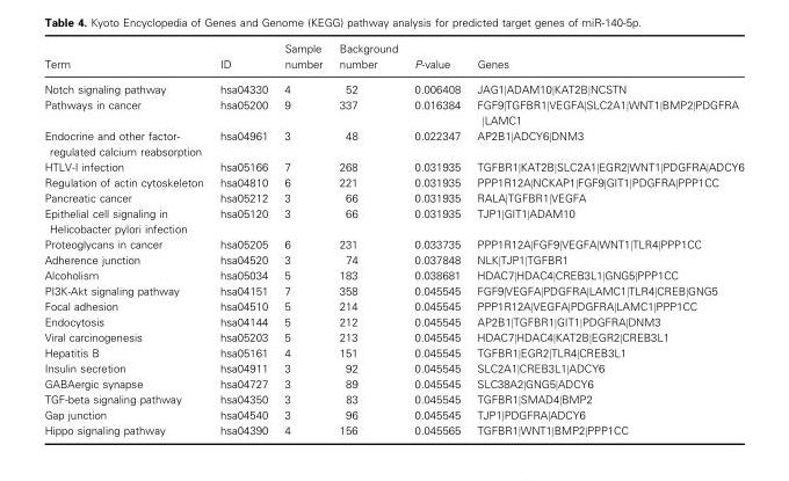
<table><thead><tr><td>Term</td><td>ID</td><td>Sample number</td><td>Background number</td><td>P-value</td><td>Genes</td></tr></thead><tbody><tr><td>Notch signaling pathway</td><td>hsa04330</td><td>4</td><td>52</td><td>0.006408</td><td>JAG1|ADAM10|KAT2B|NCSTN</td></tr><tr><td>Pathways in cancer</td><td>hsa05200</td><td>9</td><td>337</td><td>0.016384</td><td>FGF9|TGFBR1|VEGFA|SLC2A1|WNT1|BMP2|PDGFRA |LAMC1</td></tr><tr><td>Endocrine and other factor- regulated calcium reabsorption</td><td>hsa04961</td><td>3</td><td>48</td><td>0.022347</td><td>AP2B1|ADCY6|DNM3</td></tr><tr><td>HTLV-I infection</td><td>hsa05166</td><td>7</td><td>268</td><td>0.031935</td><td>TGFBR1|KAT2B|SLC2A1|EGR2|WNT1|PDGFRA|ADCY6</td></tr><tr><td>Regulation of actin cytoskeleton</td><td>hsa04810</td><td>6</td><td>221</td><td>0.031935</td><td>PPP1R12A|NCKAP1|FGF9|GIT1|PDGFRA|PPP1CC</td></tr><tr><td>Pancreatic cancer</td><td>hsa05212</td><td>3</td><td>66</td><td>0.031935</td><td>RALA|TGFBR1|VEGFA</td></tr><tr><td>Epithelial cell signaling in Helicobacter pylori infection</td><td>hsa05120</td><td>3</td><td>66</td><td>0.031935</td><td>TJP1|GIT1|ADAM10</td></tr><tr><td>Proteoglycans in cancer</td><td>hsa05205</td><td>6</td><td>231</td><td>0.033735</td><td>PPP1R12A|FGF9|VEGFA|WNT1|TLR4|PPP1CC</td></tr><tr><td>Adherence junction</td><td>hsa04520</td><td>3</td><td>74</td><td>0.037848</td><td>NLK|TJP1|TGFBR1</td></tr><tr><td>Alcoholism</td><td>hsa05034</td><td>5</td><td>183</td><td>0.038681</td><td>HDAC7|HDAC4|CREB3L1|GNG5|PPP1CC</td></tr><tr><td>PI3K-Akt signaling pathway</td><td>hsa04151</td><td>7</td><td>358</td><td>0.045545</td><td>FGF9|VEGFA|PDGFRA|LAMC1|TLR4|CREB|GNG5</td></tr><tr><td>Focal adhesion</td><td>hsa04510</td><td>5</td><td>214</td><td>0.045545</td><td>PPP1R12A|VEGFA|PDGFRA|LAMC1|PPP1CC</td></tr><tr><td>Endocytosis</td><td>hsa04144</td><td>5</td><td>212</td><td>0.045545</td><td>AP2B1|TGFBR1|GIT1|PDGFRA|DNM3</td></tr><tr><td>Viral carcinogenesis</td><td>hsa05203</td><td>5</td><td>213</td><td>0.045545</td><td>HDAC7|HDAC4|KAT2B|EGR2|CREB3L1</td></tr><tr><td>Hepatitis B</td><td>hsa05161</td><td>4</td><td>151</td><td>0.045545</td><td>TGFBR1|EGR2|TLR4|CREB3L1</td></tr><tr><td>Insulin secretion</td><td>hsa04911</td><td>3</td><td>92</td><td>0.045545</td><td>SLC2A1|CREB3L1|ADCY6</td></tr><tr><td>GABAergic synapse</td><td>hsa04727</td><td>3</td><td>89</td><td>0.045545</td><td>SLC38A2|GNG5|ADCY6</td></tr><tr><td>TGF-beta signaling pathway</td><td>hsa04350</td><td>3</td><td>83</td><td>0.045545</td><td>TGFBR1|SMAD4|BMP2</td></tr><tr><td>Gap junction</td><td>hsa04540</td><td>3</td><td>96</td><td>0.045545</td><td>TJP1|PDGFRA|ADCY6</td></tr><tr><td>Hippo signaling pathway</td><td>hsa04390</td><td>4</td><td>156</td><td>0.045565</td><td>TGFBR1|WNT1|BMP2|PPP1CC</td></tr></tbody></table>